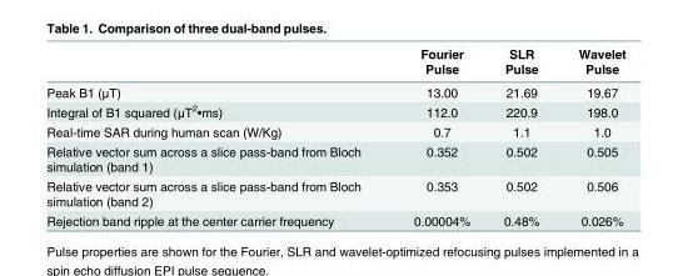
<table><thead><tr><td></td><td>Fourier Pulse</td><td>SLR Pulse</td><td>Wavelet Pulse</td></tr></thead><tbody><tr><td>Peak B1 (μT)</td><td>13.00</td><td>21.69</td><td>19.67</td></tr><tr><td>Integral of B1 squared (μT<sup>2</sup>•ms)</td><td>112.0</td><td>220.9</td><td>198.0</td></tr><tr><td>Real-time SAR during human scan (W/Kg)</td><td>0.7</td><td>1.1</td><td>1.0</td></tr><tr><td>Relative vector sum across a slice pass-band from Bloch simulation (band 1)</td><td>0.352</td><td>0.502</td><td>0.505</td></tr><tr><td>Relative vector sum across a slice pass-band from Bloch simulation (band 2)</td><td>0.353</td><td>0.502</td><td>0.506</td></tr><tr><td>Rejection band ripple at the center carrier frequency</td><td>0.00004%</td><td>0.48%</td><td>0.026%</td></tr></tbody></table>